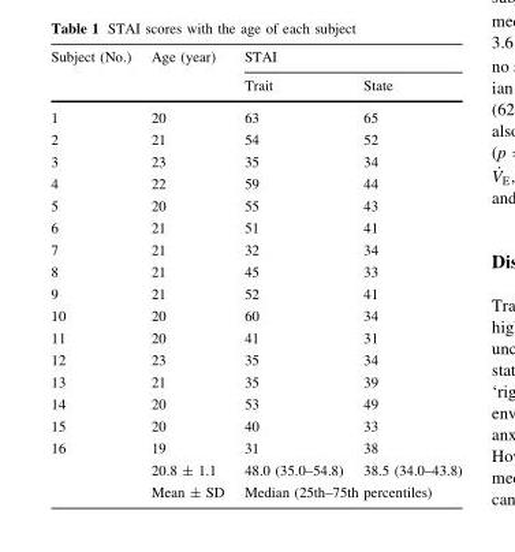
<table><thead><tr><td rowspan="2">Subject (No.)</td><td rowspan="2">Age (year)</td><td colspan="2">STAI</td></tr><tr><td>Trait</td><td>State</td></tr></thead><tbody><tr><td>1</td><td>20</td><td>63</td><td>65</td></tr><tr><td>2</td><td>21</td><td>54</td><td>52</td></tr><tr><td>3</td><td>23</td><td>35</td><td>34</td></tr><tr><td>4</td><td>22</td><td>59</td><td>44</td></tr><tr><td>5</td><td>20</td><td>55</td><td>43</td></tr><tr><td>6</td><td>21</td><td>51</td><td>41</td></tr><tr><td>7</td><td>21</td><td>32</td><td>34</td></tr><tr><td>8</td><td>21</td><td>45</td><td>33</td></tr><tr><td>9</td><td>21</td><td>52</td><td>41</td></tr><tr><td>10</td><td>20</td><td>60</td><td>34</td></tr><tr><td>11</td><td>20</td><td>41</td><td>31</td></tr><tr><td>12</td><td>23</td><td>35</td><td>34</td></tr><tr><td>13</td><td>21</td><td>35</td><td>39</td></tr><tr><td>14</td><td>20</td><td>53</td><td>49</td></tr><tr><td>15</td><td>20</td><td>40</td><td>33</td></tr><tr><td rowspan="3">16</td><td>19</td><td>31</td><td>38</td></tr><tr><td>20.8 ± 1.1</td><td>48.0 (35.0–54.8)</td><td>38.5 (34.0–43.8)</td></tr><tr><td>Mean ± SD</td><td colspan="2">Median (25th–75th percentiles)</td></tr></tbody></table>